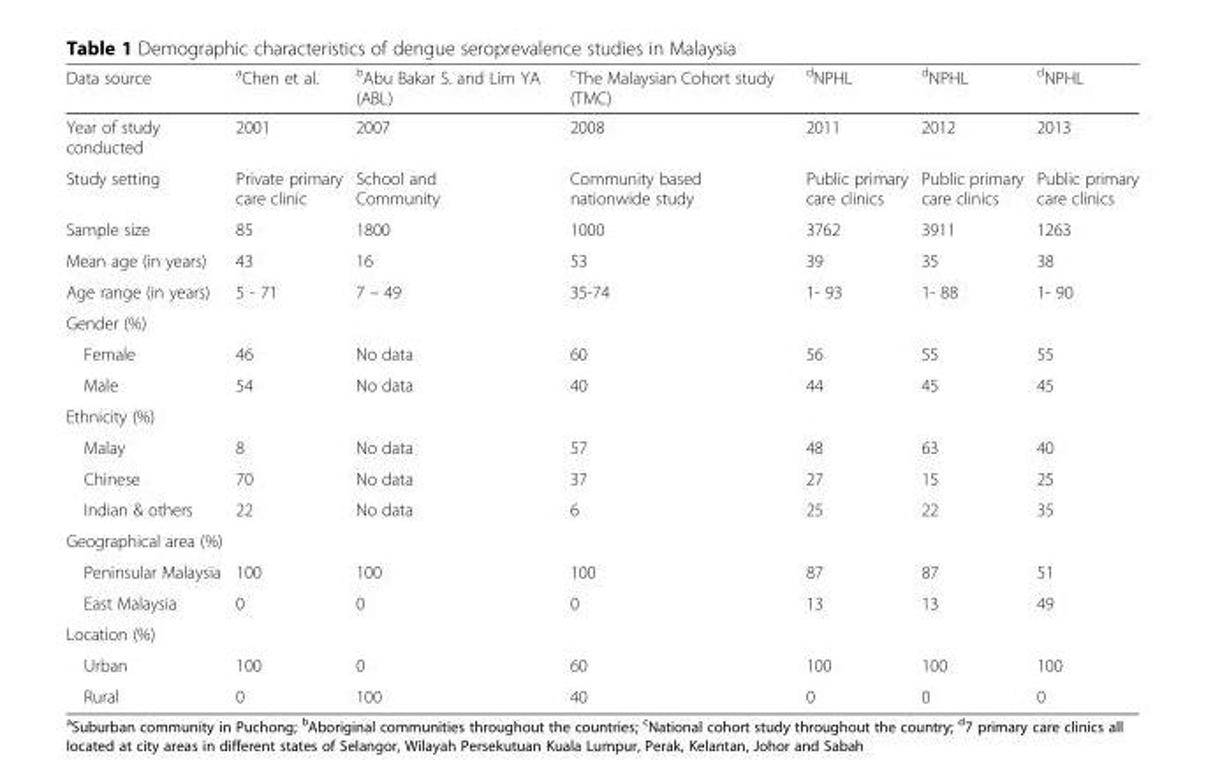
<table><thead><tr><td>Data source</td><td><sup>a</sup>Chen et al.</td><td><sup>b</sup>Abu Bakar S. and Lim YA (ABL)</td><td><sup>c</sup>The Malaysian Cohort study (TMC)</td><td><sup>d</sup>NPHL</td><td><sup>d</sup>NPHL</td><td><sup>d</sup>NPHL</td></tr></thead><tbody><tr><td>Year of study conducted</td><td>2001</td><td>2007</td><td>2008</td><td>2011</td><td>2012</td><td>2013</td></tr><tr><td>Study setting</td><td>Private primary care clinic</td><td>School and Community</td><td>Community based nationwide study</td><td>Public primary care clinics</td><td>Public primary care clinics</td><td>Public primary care clinics</td></tr><tr><td>Sample size</td><td>85</td><td>1800</td><td>1000</td><td>3762</td><td>3911</td><td>1263</td></tr><tr><td>Mean age (in years)</td><td>43</td><td>16</td><td>53</td><td>39</td><td>35</td><td>38</td></tr><tr><td>Age range (in years)</td><td>5 - 71</td><td>7 – 49</td><td>35-74</td><td>1- 93</td><td>1- 88</td><td>1- 90</td></tr><tr><td colspan="7">Gender (%)</td></tr><tr><td>Female</td><td>46</td><td>No data</td><td>60</td><td>56</td><td>55</td><td>55</td></tr><tr><td>Male</td><td>54</td><td>No data</td><td>40</td><td>44</td><td>45</td><td>45</td></tr><tr><td colspan="7">Ethnicity (%)</td></tr><tr><td>Malay</td><td>8</td><td>No data</td><td>57</td><td>48</td><td>63</td><td>40</td></tr><tr><td>Chinese</td><td>70</td><td>No data</td><td>37</td><td>27</td><td>15</td><td>25</td></tr><tr><td>Indian &amp; others</td><td>22</td><td>No data</td><td>6</td><td>25</td><td>22</td><td>35</td></tr><tr><td colspan="7">Geographical area (%)</td></tr><tr><td>Peninsular Malaysia</td><td>100</td><td>100</td><td>100</td><td>87</td><td>87</td><td>51</td></tr><tr><td>East Malaysia</td><td>0</td><td>0</td><td>0</td><td>13</td><td>13</td><td>49</td></tr><tr><td colspan="7">Location (%)</td></tr><tr><td>Urban</td><td>100</td><td>0</td><td>60</td><td>100</td><td>100</td><td>100</td></tr><tr><td>Rural</td><td>0</td><td>100</td><td>40</td><td>0</td><td>0</td><td>0</td></tr></tbody></table>